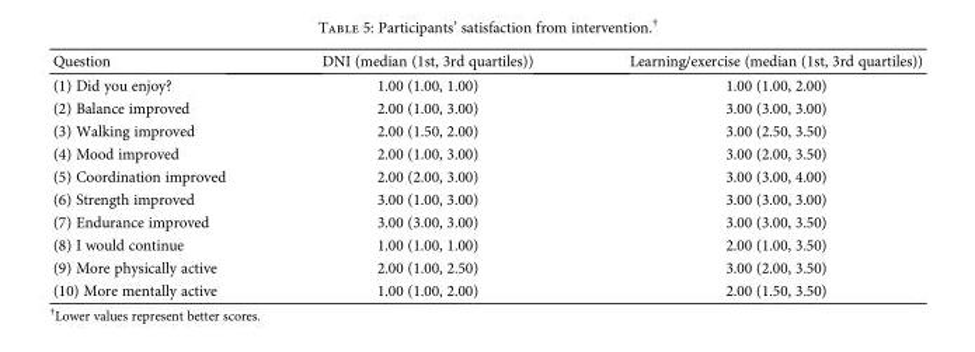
<table><thead><tr><td>Question</td><td>DNI (median (1st, 3rd quartiles))</td><td>Learning/exercise (median (1st, 3rd quartiles))</td></tr></thead><tbody><tr><td>(1) Did you enjoy?</td><td>1.00 (1.00, 1.00)</td><td>1.00 (1.00, 2.00)</td></tr><tr><td>(2) Balance improved</td><td>2.00 (1.00, 3.00)</td><td>3.00 (3.00, 3.00)</td></tr><tr><td>(3) Walking improved</td><td>2.00 (1.50, 2.00)</td><td>3.00 (2.50, 3.50)</td></tr><tr><td>(4) Mood improved</td><td>2.00 (1.00, 3.00)</td><td>3.00 (2.00, 3.50)</td></tr><tr><td>(5) Coordination improved</td><td>2.00 (2.00, 3.00)</td><td>3.00 (3.00, 4.00)</td></tr><tr><td>(6) Strength improved</td><td>3.00 (1.00, 3.00)</td><td>3.00 (3.00, 3.00)</td></tr><tr><td>(7) Endurance improved</td><td>3.00 (3.00, 3.00)</td><td>3.00 (3.00, 3.50)</td></tr><tr><td>(8) I would continue</td><td>1.00 (1.00, 1.00)</td><td>2.00 (1.00, 3.50)</td></tr><tr><td>(9) More physically active</td><td>2.00 (1.00, 2.50)</td><td>3.00 (2.00, 3.50)</td></tr><tr><td>(10) More mentally active</td><td>1.00 (1.00, 2.00)</td><td>2.00 (1.50, 3.50)</td></tr></tbody></table>